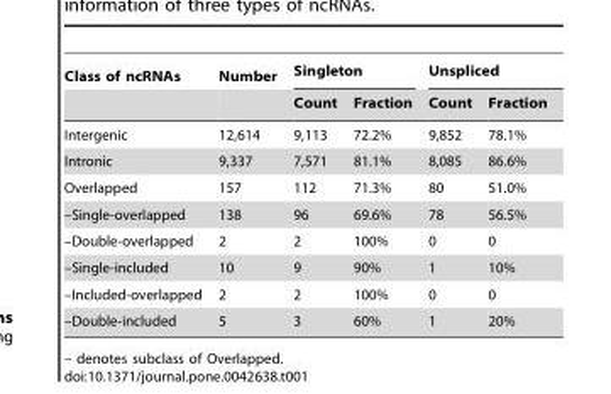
<table><thead><tr><td rowspan="2">Class of ncRNAs</td><td rowspan="2">Number</td><td colspan="2">Singleton</td><td colspan="2">Unspliced</td></tr><tr><td>Count</td><td>Fraction</td><td>Count</td><td>Fraction</td></tr></thead><tbody><tr><td>Intergenic</td><td>12,614</td><td>9,113</td><td>72.2%</td><td>9,852</td><td>78.1%</td></tr><tr><td>Intronic</td><td>9,337</td><td>7,571</td><td>81.1%</td><td>8,085</td><td>86.6%</td></tr><tr><td>Overlapped</td><td>157</td><td>112</td><td>71.3%</td><td>80</td><td>51.0%</td></tr><tr><td>–Single-overlapped</td><td>138</td><td>96</td><td>69.6%</td><td>78</td><td>56.5%</td></tr><tr><td>–Double-overlapped</td><td>2</td><td>2</td><td>100%</td><td>0</td><td>0</td></tr><tr><td>–Single-included</td><td>10</td><td>9</td><td>90%</td><td>1</td><td>10%</td></tr><tr><td>–Included-overlapped</td><td>2</td><td>2</td><td>100%</td><td>0</td><td>0</td></tr><tr><td>–Double-included</td><td>5</td><td>3</td><td>60%</td><td>1</td><td>20%</td></tr></tbody></table>